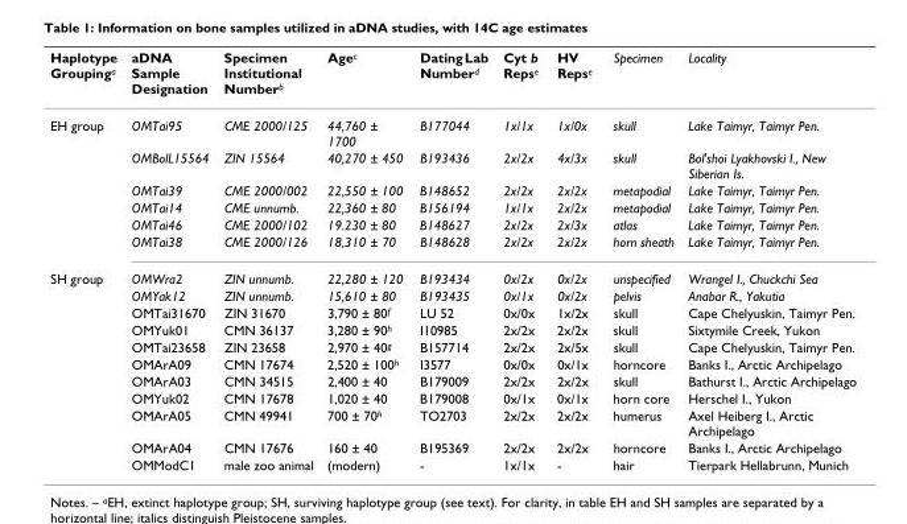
<table><thead><tr><td>Haplotype Grouping<sup>a</sup></td><td>aDNA Sample Designation</td><td>Specimen Institutional Number<sup>b</sup></td><td>Age<sup>c</sup></td><td>Dating Lab Number<sup>d</sup></td><td>Cyt b Reps<sup>e</sup></td><td>HV Reps<sup>e</sup></td><td>Specimen</td><td>Locality</td></tr></thead><tbody><tr><td rowspan="6">EH group</td><td>OMTai95</td><td>CME 2000/125</td><td>44,760 ± 1700</td><td>B177044</td><td>1x/1x</td><td>1x/0x</td><td>skull</td><td>Lake Taimyr, Taimyr Pen.</td></tr><tr><td>OMBolL15564</td><td>ZIN 15564</td><td>40,270 ± 450</td><td>B193436</td><td>2x/2x</td><td>4x/3x</td><td>skull</td><td>Bol&#x27;shoi Lyakhovski I., New Siberian Is.</td></tr><tr><td>OMTai39</td><td>CME 2000/002</td><td>22,550 ± 100</td><td>B148652</td><td>2x/2x</td><td>2x/2x</td><td>metapodial</td><td>Lake Taimyr, Taimyr Pen.</td></tr><tr><td>OMTai14</td><td>CME unnumb.</td><td>22,360 ± 80</td><td>B156194</td><td>1x/1x</td><td>2x/2x</td><td>metapodial</td><td>Lake Taimyr, Taimyr Pen.</td></tr><tr><td>OMTai46</td><td>CME 2000/102</td><td>19.230 ± 80</td><td>B148627</td><td>2x/2x</td><td>2x/3x</td><td>atlas</td><td>Lake Taimyr, Taimyr Pen.</td></tr><tr><td>OMTai38</td><td>CME 2000/126</td><td>18,310 ± 70</td><td>B148628</td><td>2x/2x</td><td>2x/2x</td><td>horn sheath</td><td>Lake Taimyr, Taimyr Pen.</td></tr><tr><td rowspan="11">SH group</td><td>OMWra2</td><td>ZIN unnumb.</td><td>22,280 ± 120</td><td>B193434</td><td>0x/2x</td><td>0x/2x</td><td>unspecified</td><td>Wrangel I., Chuckchi Sea</td></tr><tr><td>OMYak12</td><td>ZIN unnumb.</td><td>15,610 ± 80</td><td>B193435</td><td>0x/1x</td><td>0x/2x</td><td>pelvis</td><td>Anabar R., Yakutia</td></tr><tr><td>OMTai31670</td><td>ZIN 31670</td><td>3,790 ± 80<sup>f</sup></td><td>LU 52</td><td>0x/0x</td><td>1x/2x</td><td>skull</td><td>Cape Chelyuskin, Taimyr Pen.</td></tr><tr><td>OMYuk01</td><td>CMN 36137</td><td>3,280 ± 90<sup>h</sup></td><td>I10985</td><td>2x/2x</td><td>2x/2x</td><td>skull</td><td>Sixtymile Creek, Yukon</td></tr><tr><td>OMTai23658</td><td>ZIN 23658</td><td>2,970 ± 40<sup>g</sup></td><td>B157714</td><td>2x/2x</td><td>2x/5x</td><td>skull</td><td>Cape Chelyuskin, Taimyr Pen.</td></tr><tr><td>OMArA09</td><td>CMN 17674</td><td>2,520 ± 100<sup>h</sup></td><td>I3577</td><td>0x/0x</td><td>0x/1x</td><td>horncore</td><td>Banks I., Arctic Archipelago</td></tr><tr><td>OMArA03</td><td>CMN 34515</td><td>2,400 ± 40</td><td>B179009</td><td>2x/2x</td><td>2x/2x</td><td>skull</td><td>Bathurst I., Arctic Archipelago</td></tr><tr><td>OMYuk02</td><td>CMN 17678</td><td>1,020 ± 40</td><td>B179008</td><td>0x/1x</td><td>0x/1x</td><td>horn core</td><td>Herschel I., Yukon</td></tr><tr><td>OMArA05</td><td>CMN 49941</td><td>700 ± 70<sup>h</sup></td><td>TO2703</td><td>2x/2x</td><td>2x/2x</td><td>humerus</td><td>Axel Heiberg I., Arctic Archipelago</td></tr><tr><td>OMArA04</td><td>CMN 17676</td><td>160 ± 40</td><td>B195369</td><td>2x/2x</td><td>2x/2x</td><td>horncore</td><td>Banks I., Arctic Archipelago</td></tr><tr><td>OMModC1</td><td>male zoo animal</td><td>(modern)</td><td>-</td><td>1x/1x</td><td>-</td><td>hair</td><td>Tierpark Hellabrunn, Munich</td></tr></tbody></table>